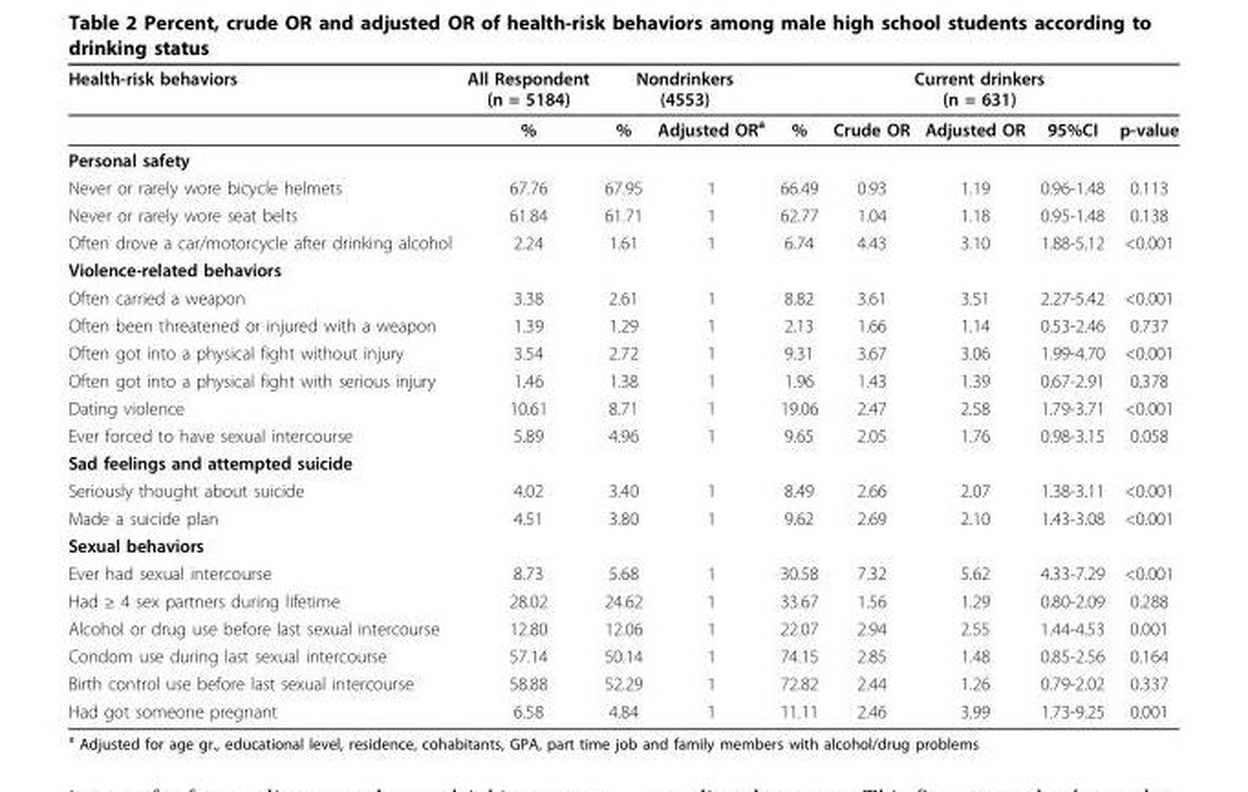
<table><thead><tr><td rowspan="2">Health-risk behaviors</td><td rowspan="2">All Respondent (n = 5184) %</td><td colspan="2">Nondrinkers (4553)</td><td colspan="5">Current drinkers (n = 631)</td></tr><tr><td>%</td><td>Adjusted OR<sup>a</sup></td><td>%</td><td>Crude OR</td><td>Adjusted OR</td><td>95%CI</td><td>p-value</td></tr></thead><tbody><tr><td colspan="9">Personal safety</td></tr><tr><td>Never or rarely wore bicycle helmets</td><td>67.76</td><td>67.95</td><td>1</td><td>66.49</td><td>0.93</td><td>1.19</td><td>0.96-1.48</td><td>0.113</td></tr><tr><td>Never or rarely wore seat belts</td><td>61.84</td><td>61.71</td><td>1</td><td>62.77</td><td>1.04</td><td>1.18</td><td>0.95-1.48</td><td>0.138</td></tr><tr><td>Often drove a car/motorcycle after drinking alcohol</td><td>2.24</td><td>1.61</td><td>1</td><td>6.74</td><td>4.43</td><td>3.10</td><td>1.88-5.12</td><td>&lt;0.001</td></tr><tr><td colspan="9">Violence-related behaviors</td></tr><tr><td>Often carried a weapon</td><td>3.38</td><td>2.61</td><td>1</td><td>8.82</td><td>3.61</td><td>3.51</td><td>2.27-5.42</td><td>&lt;0.001</td></tr><tr><td>Often been threatened or injured with a weapon</td><td>1.39</td><td>1.29</td><td>1</td><td>2.13</td><td>1.66</td><td>1.14</td><td>0.53-2.46</td><td>0.737</td></tr><tr><td>Often got into a physical fight without injury</td><td>3.54</td><td>2.72</td><td>1</td><td>9.31</td><td>3.67</td><td>3.06</td><td>1.99-4.70</td><td>&lt;0.001</td></tr><tr><td>Often got into a physical fight with serious injury</td><td>1.46</td><td>1.38</td><td>1</td><td>1.96</td><td>1.43</td><td>1.39</td><td>0.67-2.91</td><td>0.378</td></tr><tr><td>Dating violence</td><td>10.61</td><td>8.71</td><td>1</td><td>19.06</td><td>2.47</td><td>2.58</td><td>1.79-3.71</td><td>&lt;0.001</td></tr><tr><td>Ever forced to have sexual intercourse</td><td>5.89</td><td>4.96</td><td>1</td><td>9.65</td><td>2.05</td><td>1.76</td><td>0.98-3.15</td><td>0.058</td></tr><tr><td colspan="9">Sad feelings and attempted suicide</td></tr><tr><td>Seriously thought about suicide</td><td>4.02</td><td>3.40</td><td>1</td><td>8.49</td><td>2.66</td><td>2.07</td><td>1.38-3.11</td><td>&lt;0.001</td></tr><tr><td>Made a suicide plan</td><td>4.51</td><td>3.80</td><td>1</td><td>9.62</td><td>2.69</td><td>2.10</td><td>1.43-3.08</td><td>&lt;0.001</td></tr><tr><td colspan="9">Sexual behaviors</td></tr><tr><td>Ever had sexual intercourse</td><td>8.73</td><td>5.68</td><td>1</td><td>30.58</td><td>7.32</td><td>5.62</td><td>4.33-7.29</td><td>&lt;0.001</td></tr><tr><td>Had ≥ 4 sex partners during lifetime</td><td>28.02</td><td>24.62</td><td>1</td><td>33.67</td><td>1.56</td><td>1.29</td><td>0.80-2.09</td><td>0.288</td></tr><tr><td>Alcohol or drug use before last sexual intercourse</td><td>12.80</td><td>12.06</td><td>1</td><td>22.07</td><td>2.94</td><td>2.55</td><td>1.44-4.53</td><td>0.001</td></tr><tr><td>Condom use during last sexual intercourse</td><td>57.14</td><td>50.14</td><td>1</td><td>74.15</td><td>2.85</td><td>1.48</td><td>0.85-2.56</td><td>0.164</td></tr><tr><td>Birth control use before last sexual intercourse</td><td>58.88</td><td>52.29</td><td>1</td><td>72.82</td><td>2.44</td><td>1.26</td><td>0.79-2.02</td><td>0.337</td></tr><tr><td>Had got someone pregnant</td><td>6.58</td><td>4.84</td><td>1</td><td>11.11</td><td>2.46</td><td>3.99</td><td>1.73-9.25</td><td>0.001</td></tr></tbody></table>